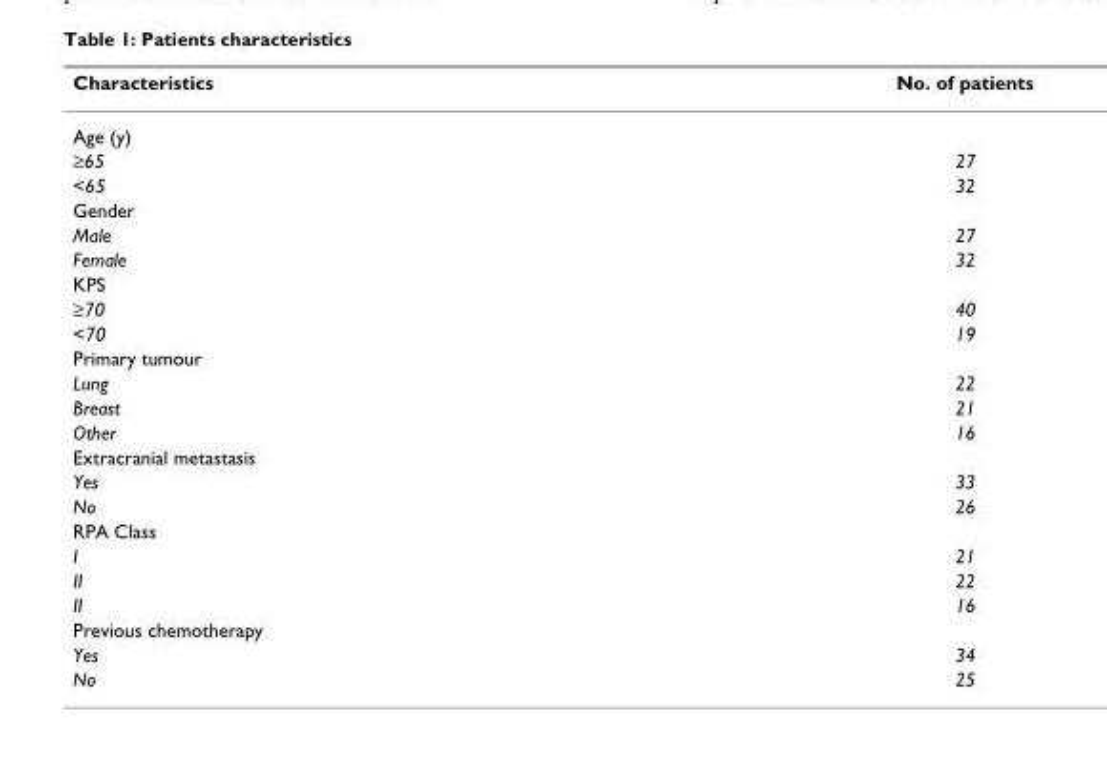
<table><thead><tr><td>Characteristics</td><td>No. of patients</td></tr></thead><tbody><tr><td colspan="2">Age (y)</td></tr><tr><td>≥65</td><td>27</td></tr><tr><td>&lt;65</td><td>32</td></tr><tr><td colspan="2">Gender</td></tr><tr><td>Male</td><td>27</td></tr><tr><td>Female</td><td>32</td></tr><tr><td colspan="2">KPS</td></tr><tr><td>≥70</td><td>40</td></tr><tr><td>&lt;70</td><td>19</td></tr><tr><td colspan="2">Primary tumour</td></tr><tr><td>Lung</td><td>22</td></tr><tr><td>Breast</td><td>21</td></tr><tr><td>Other</td><td>16</td></tr><tr><td colspan="2">Extracranial metastasis</td></tr><tr><td>Yes</td><td>33</td></tr><tr><td>No</td><td>26</td></tr><tr><td colspan="2">RPA Class</td></tr><tr><td>I</td><td>21</td></tr><tr><td>II</td><td>22</td></tr><tr><td>II</td><td>16</td></tr><tr><td colspan="2">Previous chemotherapy</td></tr><tr><td>Yes</td><td>34</td></tr><tr><td>No</td><td>25</td></tr></tbody></table>